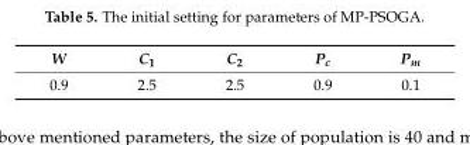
<table><thead><tr><td>W</td><td>C<sub>1</sub></td><td>C<sub>2</sub></td><td>P<sub>c</sub></td><td>P<sub>m</sub></td></tr></thead><tbody><tr><td>0.9</td><td>2.5</td><td>2.5</td><td>0.9</td><td>0.1</td></tr></tbody></table>